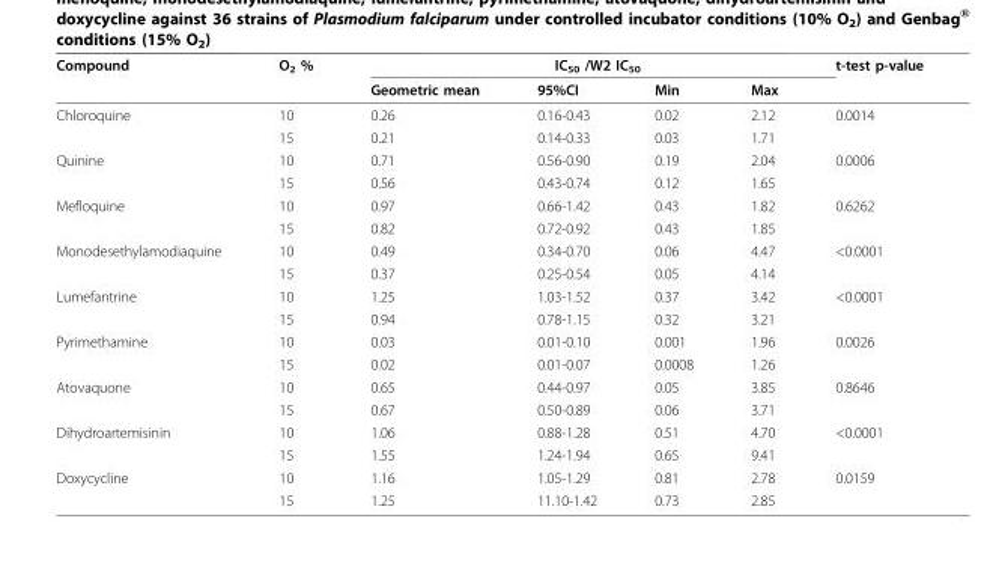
<table><thead><tr><td rowspan="2">Compound</td><td rowspan="2">O<sub>2</sub> %</td><td colspan="4">IC<sub>50</sub> /W2 IC<sub>50</sub></td><td rowspan="2">t-test p-value</td></tr><tr><td>Geometric mean</td><td>95%CI</td><td>Min</td><td>Max</td></tr></thead><tbody><tr><td rowspan="2">Chloroquine</td><td>10</td><td>0.26</td><td>0.16-0.43</td><td>0.02</td><td>2.12</td><td>0.0014</td></tr><tr><td>15</td><td>0.21</td><td>0.14-0.33</td><td>0.03</td><td>1.71</td><td></td></tr><tr><td rowspan="2">Quinine</td><td>10</td><td>0.71</td><td>0.56-0.90</td><td>0.19</td><td>2.04</td><td>0.0006</td></tr><tr><td>15</td><td>0.56</td><td>0.43-0.74</td><td>0.12</td><td>1.65</td><td></td></tr><tr><td rowspan="2">Mefloquine</td><td>10</td><td>0.97</td><td>0.66-1.42</td><td>0.43</td><td>1.82</td><td>0.6262</td></tr><tr><td>15</td><td>0.82</td><td>0.72-0.92</td><td>0.43</td><td>1.85</td><td></td></tr><tr><td rowspan="2">Monodesethylamodiaquine</td><td>10</td><td>0.49</td><td>0.34-0.70</td><td>0.06</td><td>4.47</td><td>&lt;0.0001</td></tr><tr><td>15</td><td>0.37</td><td>0.25-0.54</td><td>0.05</td><td>4.14</td><td></td></tr><tr><td rowspan="2">Lumefantrine</td><td>10</td><td>1.25</td><td>1.03-1.52</td><td>0.37</td><td>3.42</td><td>&lt;0.0001</td></tr><tr><td>15</td><td>0.94</td><td>0.78-1.15</td><td>0.32</td><td>3.21</td><td></td></tr><tr><td rowspan="2">Pyrimethamine</td><td>10</td><td>0.03</td><td>0.01-0.10</td><td>0.001</td><td>1.96</td><td>0.0026</td></tr><tr><td>15</td><td>0.02</td><td>0.01-0.07</td><td>0.0008</td><td>1.26</td><td></td></tr><tr><td rowspan="2">Atovaquone</td><td>10</td><td>0.65</td><td>0.44-0.97</td><td>0.05</td><td>3.85</td><td>0.8646</td></tr><tr><td>15</td><td>0.67</td><td>0.50-0.89</td><td>0.06</td><td>3.71</td><td></td></tr><tr><td rowspan="2">Dihydroartemisinin</td><td>10</td><td>1.06</td><td>0.88-1.28</td><td>0.51</td><td>4.70</td><td>&lt;0.0001</td></tr><tr><td>15</td><td>1.55</td><td>1.24-1.94</td><td>0.65</td><td>9.41</td><td></td></tr><tr><td rowspan="2">Doxycycline</td><td>10</td><td>1.16</td><td>1.05-1.29</td><td>0.81</td><td>2.78</td><td>0.0159</td></tr><tr><td>15</td><td>1.25</td><td>11.10-1.42</td><td>0.73</td><td>2.85</td><td></td></tr></tbody></table>